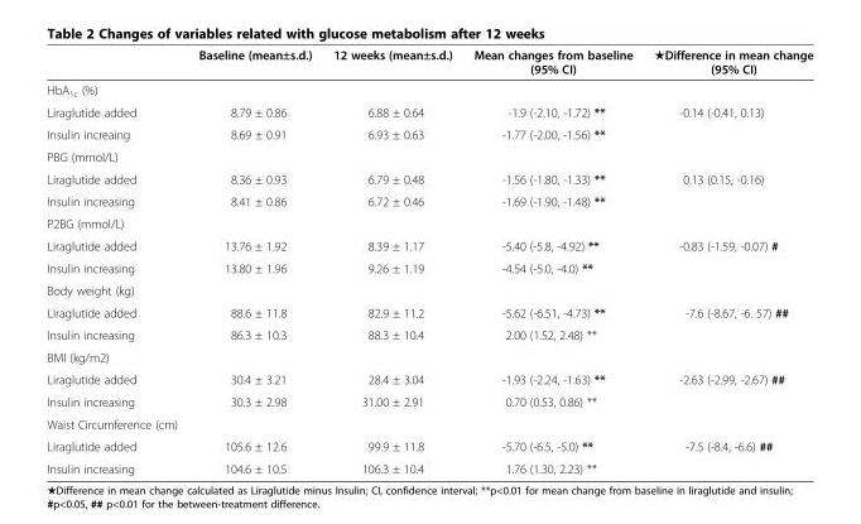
<table><thead><tr><td></td><td>Baseline (mean±s.d.)</td><td>12 weeks (mean±s.d.)</td><td>Mean changes from baseline (95% CI)</td><td>★Difference in mean change (95% CI)</td></tr></thead><tbody><tr><td colspan="5">HbA<sub>1c</sub> (%)</td></tr><tr><td>Liraglutide added</td><td>8.79 ± 0.86</td><td>6.88 ± 0.64</td><td>-1.9 (-2.10, -1.72) **</td><td>-0.14 (-0.41, 0.13)</td></tr><tr><td>Insulin increaing</td><td>8.69 ± 0.91</td><td>6.93 ± 0.63</td><td>-1.77 (-2.00, -1.56) **</td><td></td></tr><tr><td colspan="5">PBG (mmol/L)</td></tr><tr><td>Liraglutide added</td><td>8.36 ± 0.93</td><td>6.79 ± 0.48</td><td>-1.56 (-1.80, -1.33) **</td><td>0.13 (0.15, -0.16)</td></tr><tr><td>Insulin increasing</td><td>8.41 ± 0.86</td><td>6.72 ± 0.46</td><td>-1.69 (-1.90, -1.48) **</td><td></td></tr><tr><td colspan="5">P2BG (mmol/L)</td></tr><tr><td>Liraglutide added</td><td>13.76 ± 1.92</td><td>8.39 ± 1.17</td><td>-5.40 (-5.8, -4.92) **</td><td>-0.83 (-1.59, -0.07) #</td></tr><tr><td>Insulin increasing</td><td>13.80 ± 1.96</td><td>9.26 ± 1.19</td><td>-4.54 (-5.0, -4.0) **</td><td></td></tr><tr><td colspan="5">Body weight (kg)</td></tr><tr><td>Liraglutide added</td><td>88.6 ± 11.8</td><td>82.9 ± 11.2</td><td>-5.62 (-6.51, -4.73) **</td><td>-7.6 (-8.67, -6. 57) ##</td></tr><tr><td>Insulin increasing</td><td>86.3 ± 10.3</td><td>88.3 ± 10.4</td><td>2.00 (1.52, 2.48) **</td><td></td></tr><tr><td colspan="5">BMI (kg/m2)</td></tr><tr><td>Liraglutide added</td><td>30.4 ± 3.21</td><td>28.4 ± 3.04</td><td>-1.93 (-2.24, -1.63) **</td><td>-2.63 (-2.99, -2.67) ##</td></tr><tr><td>Insulin increasing</td><td>30.3 ± 2.98</td><td>31.00 ± 2.91</td><td>0.70 (0.53, 0.86) **</td><td></td></tr><tr><td colspan="5">Waist Circumference (cm)</td></tr><tr><td>Liraglutide added</td><td>105.6 ± 12.6</td><td>99.9 ± 11.8</td><td>-5.70 (-6.5, -5.0) **</td><td>-7.5 (-8.4, -6.6) ##</td></tr><tr><td>Insulin increasing</td><td>104.6 ± 10.5</td><td>106.3 ± 10.4</td><td>1.76 (1.30, 2.23) **</td><td></td></tr></tbody></table>